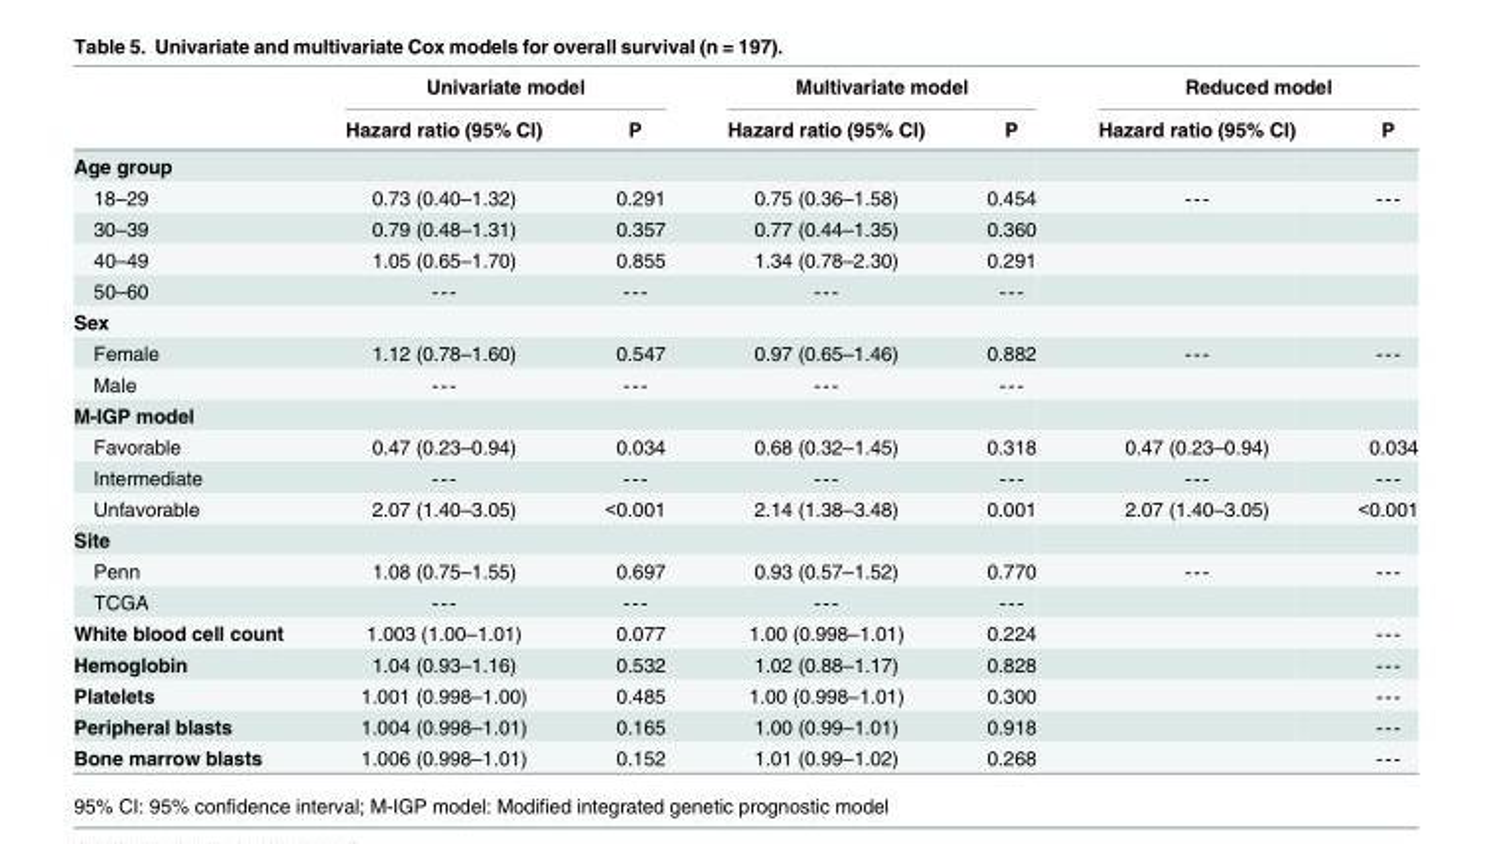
<table><thead><tr><td rowspan="2"></td><td colspan="2">Univariate model</td><td colspan="2">Multivariate model</td><td colspan="2">Reduced model</td></tr><tr><td>Hazard ratio (95% CI)</td><td>P</td><td>Hazard ratio (95% CI)</td><td>P</td><td>Hazard ratio (95% CI)</td><td>P</td></tr></thead><tbody><tr><td colspan="7">Age group</td></tr><tr><td>18–29</td><td>0.73 (0.40–1.32)</td><td>0.291</td><td>0.75 (0.36–1.58)</td><td>0.454</td><td>---</td><td>---</td></tr><tr><td>30–39</td><td>0.79 (0.48–1.31)</td><td>0.357</td><td>0.77 (0.44–1.35)</td><td>0.360</td><td></td><td></td></tr><tr><td>40–49</td><td>1.05 (0.65–1.70)</td><td>0.855</td><td>1.34 (0.78–2.30)</td><td>0.291</td><td></td><td></td></tr><tr><td>50–60</td><td>---</td><td>---</td><td>---</td><td>---</td><td></td><td></td></tr><tr><td colspan="7">Sex</td></tr><tr><td>Female</td><td>1.12 (0.78–1.60)</td><td>0.547</td><td>0.97 (0.65–1.46)</td><td>0.882</td><td>---</td><td>---</td></tr><tr><td>Male</td><td>---</td><td>---</td><td>---</td><td>---</td><td></td><td></td></tr><tr><td colspan="7">M-IGP model</td></tr><tr><td>Favorable</td><td>0.47 (0.23–0.94)</td><td>0.034</td><td>0.68 (0.32–1.45)</td><td>0.318</td><td>0.47 (0.23–0.94)</td><td>0.034</td></tr><tr><td>Intermediate</td><td>---</td><td>---</td><td>---</td><td>---</td><td>---</td><td>---</td></tr><tr><td>Unfavorable</td><td>2.07 (1.40–3.05)</td><td>&lt;0.001</td><td>2.14 (1.38–3.48)</td><td>0.001</td><td>2.07 (1.40–3.05)</td><td>&lt;0.001</td></tr><tr><td colspan="7">Site</td></tr><tr><td>Penn</td><td>1.08 (0.75–1.55)</td><td>0.697</td><td>0.93 (0.57–1.52)</td><td>0.770</td><td>---</td><td>---</td></tr><tr><td>TCGA</td><td>---</td><td>---</td><td>---</td><td>---</td><td></td><td></td></tr><tr><td>White blood cell count</td><td>1.003 (1.00–1.01)</td><td>0.077</td><td>1.00 (0.998–1.01)</td><td>0.224</td><td></td><td>---</td></tr><tr><td>Hemoglobin</td><td>1.04 (0.93–1.16)</td><td>0.532</td><td>1.02 (0.88–1.17)</td><td>0.828</td><td></td><td>---</td></tr><tr><td>Platelets</td><td>1.001 (0.998–1.00)</td><td>0.485</td><td>1.00 (0.998–1.01)</td><td>0.300</td><td></td><td>---</td></tr><tr><td>Peripheral blasts</td><td>1.004 (0.998–1.01)</td><td>0.165</td><td>1.00 (0.99–1.01)</td><td>0.918</td><td></td><td>---</td></tr><tr><td>Bone marrow blasts</td><td>1.006 (0.998–1.01)</td><td>0.152</td><td>1.01 (0.99–1.02)</td><td>0.268</td><td></td><td>---</td></tr></tbody></table>